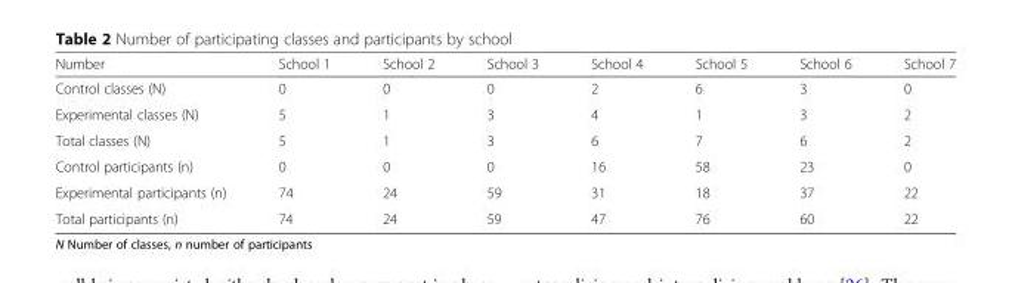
<table><thead><tr><td>Number</td><td>School 1</td><td>School 2</td><td>School 3</td><td>School 4</td><td>School 5</td><td>School 6</td><td>School 7</td></tr></thead><tbody><tr><td>Control classes (N)</td><td>0</td><td>0</td><td>0</td><td>2</td><td>6</td><td>3</td><td>0</td></tr><tr><td>Experimental classes (N)</td><td>5</td><td>1</td><td>3</td><td>4</td><td>1</td><td>3</td><td>2</td></tr><tr><td>Total classes (N)</td><td>5</td><td>1</td><td>3</td><td>6</td><td>7</td><td>6</td><td>2</td></tr><tr><td>Control participants (n)</td><td>0</td><td>0</td><td>0</td><td>16</td><td>58</td><td>23</td><td>0</td></tr><tr><td>Experimental participants (n)</td><td>74</td><td>24</td><td>59</td><td>31</td><td>18</td><td>37</td><td>22</td></tr><tr><td>Total participants (n)</td><td>74</td><td>24</td><td>59</td><td>47</td><td>76</td><td>60</td><td>22</td></tr></tbody></table>